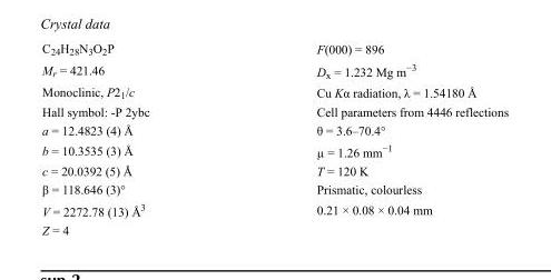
<table><tbody><tr><td>C<sub>24</sub>H<sub>28</sub>N<sub>3</sub>O<sub>2</sub>P</td><td>F(000) = 896</td></tr><tr><td>M<sub>r</sub> = 421.46</td><td>D<sub>x</sub> = 1.232 Mg m<sup>−3</sup></td></tr><tr><td>Monoclinic, P2<sub>1</sub>/c</td><td>Cu Kα radiation, λ = 1.54180 Å</td></tr><tr><td>Hall symbol: -P 2ybc</td><td>Cell parameters from 4446 reflections</td></tr><tr><td>a = 12.4823 (4) Å</td><td>θ = 3.6–70.4°</td></tr><tr><td>b = 10.3535 (3) Å</td><td>µ = 1.26 mm<sup>−1</sup></td></tr><tr><td>c = 20.0392 (5) Å</td><td>T = 120 K</td></tr><tr><td>β = 118.646 (3)°</td><td>Prismatic, colourless</td></tr><tr><td>V = 2272.78 (13) Å<sup>3</sup></td><td>0.21 × 0.08 × 0.04 mm</td></tr><tr><td>Z = 4</td><td></td></tr></tbody></table>